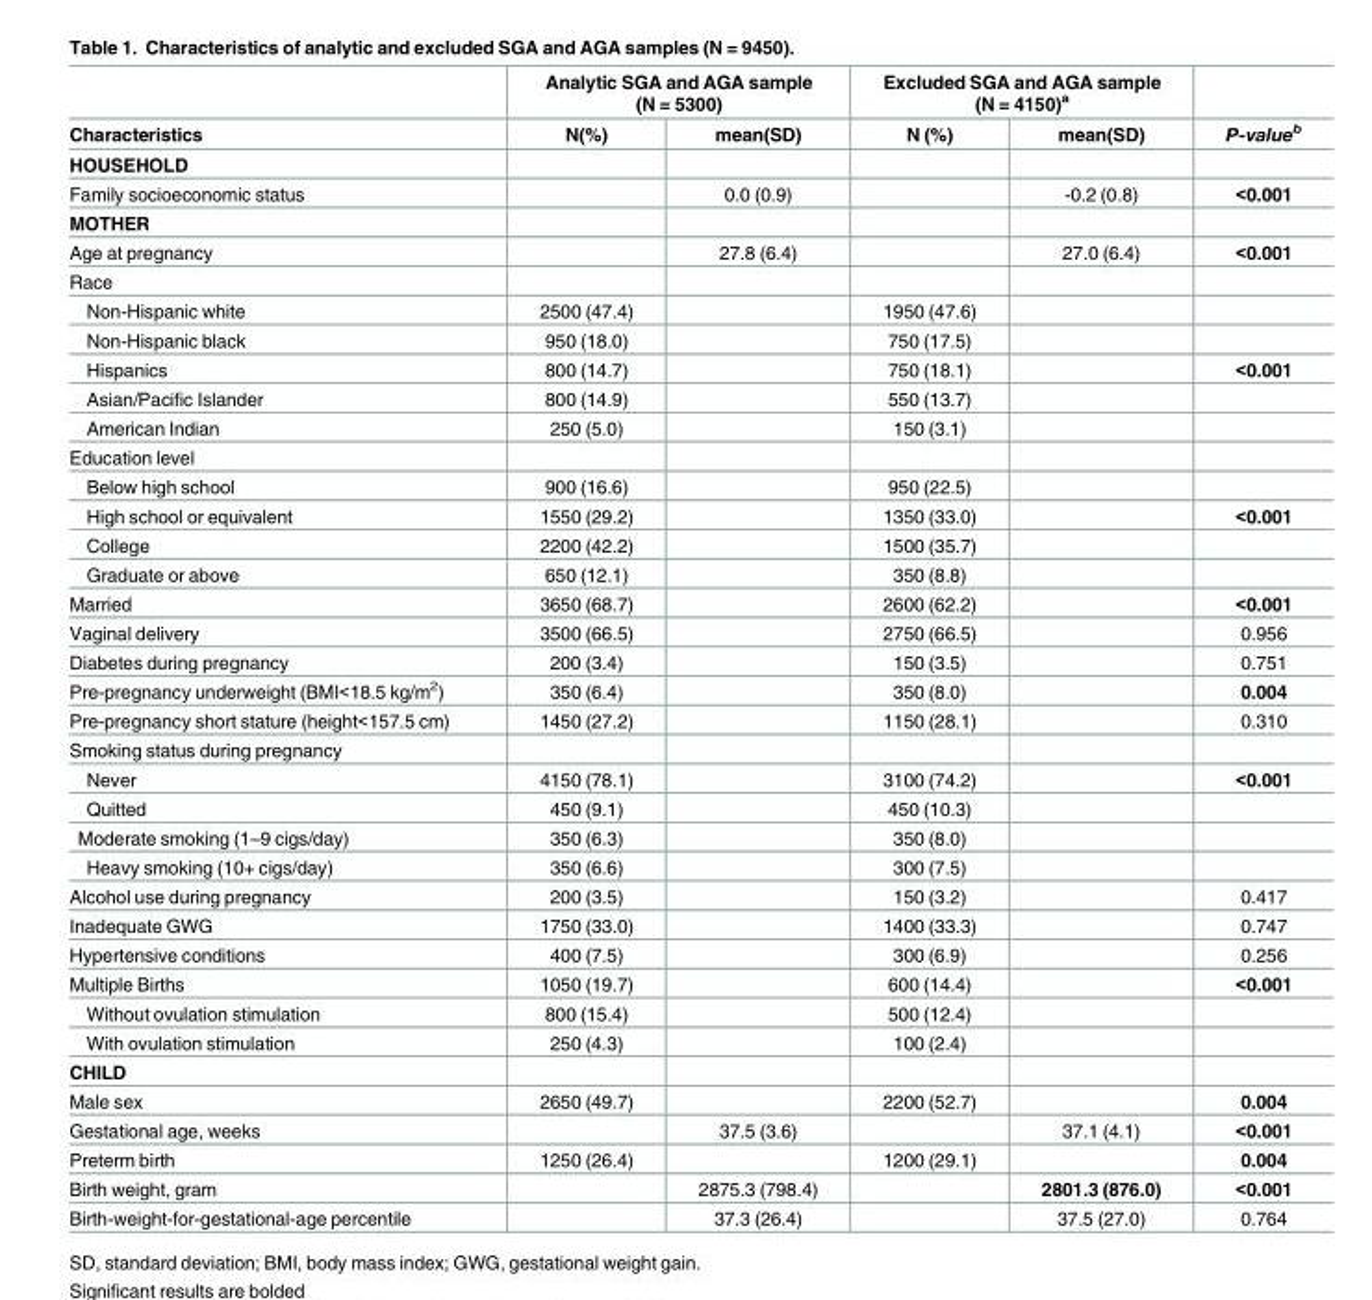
<table><thead><tr><td rowspan="2">Characteristics</td><td colspan="2">Analytic SGA and AGA sample (N = 5300)</td><td colspan="2">Excluded SGA and AGA sample (N = 4150)<sup>a</sup></td><td rowspan="2">P-value<sup>b</sup></td></tr><tr><td>N(%)</td><td>mean(SD)</td><td>N (%)</td><td>mean(SD)</td></tr></thead><tbody><tr><td colspan="6">HOUSEHOLD</td></tr><tr><td>Family socioeconomic status</td><td></td><td>0.0 (0.9)</td><td></td><td>-0.2 (0.8)</td><td>&lt;0.001</td></tr><tr><td colspan="6">MOTHER</td></tr><tr><td>Age at pregnancy</td><td></td><td>27.8 (6.4)</td><td></td><td>27.0 (6.4)</td><td>&lt;0.001</td></tr><tr><td colspan="6">Race</td></tr><tr><td>Non-Hispanic white</td><td>2500 (47.4)</td><td></td><td>1950 (47.6)</td><td></td><td></td></tr><tr><td>Non-Hispanic black</td><td>950 (18.0)</td><td></td><td>750 (17.5)</td><td></td><td></td></tr><tr><td>Hispanics</td><td>800 (14.7)</td><td></td><td>750 (18.1)</td><td></td><td>&lt;0.001</td></tr><tr><td>Asian/Pacific Islander</td><td>800 (14.9)</td><td></td><td>550 (13.7)</td><td></td><td></td></tr><tr><td>American Indian</td><td>250 (5.0)</td><td></td><td>150 (3.1)</td><td></td><td></td></tr><tr><td colspan="6">Education level</td></tr><tr><td>Below high school</td><td>900 (16.6)</td><td></td><td>950 (22.5)</td><td></td><td></td></tr><tr><td>High school or equivalent</td><td>1550 (29.2)</td><td></td><td>1350 (33.0)</td><td></td><td>&lt;0.001</td></tr><tr><td>College</td><td>2200 (42.2)</td><td></td><td>1500 (35.7)</td><td></td><td></td></tr><tr><td>Graduate or above</td><td>650 (12.1)</td><td></td><td>350 (8.8)</td><td></td><td></td></tr><tr><td>Married</td><td>3650 (68.7)</td><td></td><td>2600 (62.2)</td><td></td><td>&lt;0.001</td></tr><tr><td>Vaginal delivery</td><td>3500 (66.5)</td><td></td><td>2750 (66.5)</td><td></td><td>0.956</td></tr><tr><td>Diabetes during pregnancy</td><td>200 (3.4)</td><td></td><td>150 (3.5)</td><td></td><td>0.751</td></tr><tr><td>Pre-pregnancy underweight (BMI&lt;18.5 kg/m<sup>2</sup>)</td><td>350 (6.4)</td><td></td><td>350 (8.0)</td><td></td><td>0.004</td></tr><tr><td>Pre-pregnancy short stature (height&lt;157.5 cm)</td><td>1450 (27.2)</td><td></td><td>1150 (28.1)</td><td></td><td>0.310</td></tr><tr><td colspan="6">Smoking status during pregnancy</td></tr><tr><td>Never</td><td>4150 (78.1)</td><td></td><td>3100 (74.2)</td><td></td><td>&lt;0.001</td></tr><tr><td>Quitted</td><td>450 (9.1)</td><td></td><td>450 (10.3)</td><td></td><td></td></tr><tr><td>Moderate smoking (1–9 cigs/day)</td><td>350 (6.3)</td><td></td><td>350 (8.0)</td><td></td><td></td></tr><tr><td>Heavy smoking (10+ cigs/day)</td><td>350 (6.6)</td><td></td><td>300 (7.5)</td><td></td><td></td></tr><tr><td>Alcohol use during pregnancy</td><td>200 (3.5)</td><td></td><td>150 (3.2)</td><td></td><td>0.417</td></tr><tr><td>Inadequate GWG</td><td>1750 (33.0)</td><td></td><td>1400 (33.3)</td><td></td><td>0.747</td></tr><tr><td>Hypertensive conditions</td><td>400 (7.5)</td><td></td><td>300 (6.9)</td><td></td><td>0.256</td></tr><tr><td>Multiple Births</td><td>1050 (19.7)</td><td></td><td>600 (14.4)</td><td></td><td>&lt;0.001</td></tr><tr><td>Without ovulation stimulation</td><td>800 (15.4)</td><td></td><td>500 (12.4)</td><td></td><td></td></tr><tr><td>With ovulation stimulation</td><td>250 (4.3)</td><td></td><td>100 (2.4)</td><td></td><td></td></tr><tr><td colspan="6">CHILD</td></tr><tr><td>Male sex</td><td>2650 (49.7)</td><td></td><td>2200 (52.7)</td><td></td><td>0.004</td></tr><tr><td>Gestational age, weeks</td><td></td><td>37.5 (3.6)</td><td></td><td>37.1 (4.1)</td><td>&lt;0.001</td></tr><tr><td>Preterm birth</td><td>1250 (26.4)</td><td></td><td>1200 (29.1)</td><td></td><td>0.004</td></tr><tr><td>Birth weight, gram</td><td></td><td>2875.3 (798.4)</td><td></td><td>2801.3 (876.0)</td><td>&lt;0.001</td></tr><tr><td>Birth-weight-for-gestational-age percentile</td><td></td><td>37.3 (26.4)</td><td></td><td>37.5 (27.0)</td><td>0.764</td></tr></tbody></table>